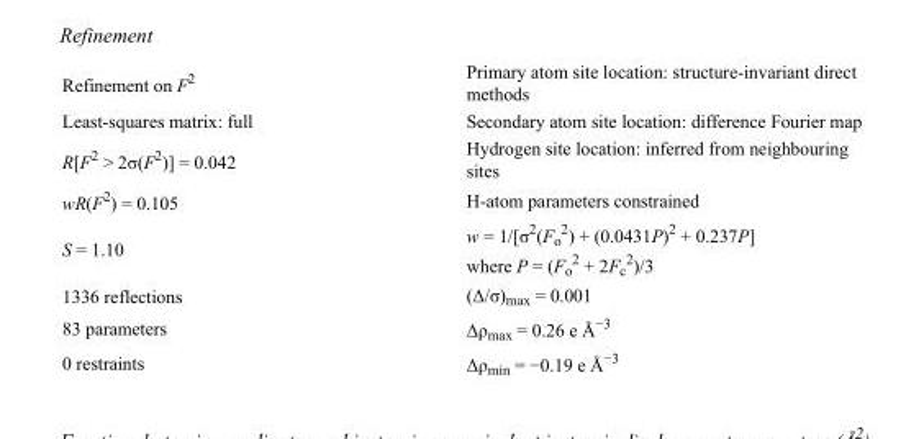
<table><tbody><tr><td>Refinement on F<sup>2</sup></td><td>Primary atom site location: structure-invariant direct methods</td></tr><tr><td>Least-squares matrix: full</td><td>Secondary atom site location: difference Fourier map</td></tr><tr><td>R[F<sup>2</sup> &gt; 2σ(F<sup>2</sup>)] = 0.042</td><td>Hydrogen site location: inferred from neighbouring sites</td></tr><tr><td>wR(F<sup>2</sup>) = 0.105</td><td>H-atom parameters constrained</td></tr><tr><td>S = 1.10</td><td>w = 1/[σ<sup>2</sup>(F<sub>o</sub> <sup>2</sup>) + (0.0431P)<sup>2</sup> + 0.237P] where P = (F<sub>o</sub> <sup>2</sup> + 2F<sub>c</sub> <sup>2</sup>)/3</td></tr><tr><td>1336 reflections</td><td>(Δ/σ)<sub>max</sub> = 0.001</td></tr><tr><td>83 parameters</td><td>Δρ<sub>max</sub> = 0.26 e Å<sup>−3</sup></td></tr><tr><td>0 restraints</td><td>Δρ<sub>min</sub> = −0.19 e Å<sup>−3</sup></td></tr></tbody></table>